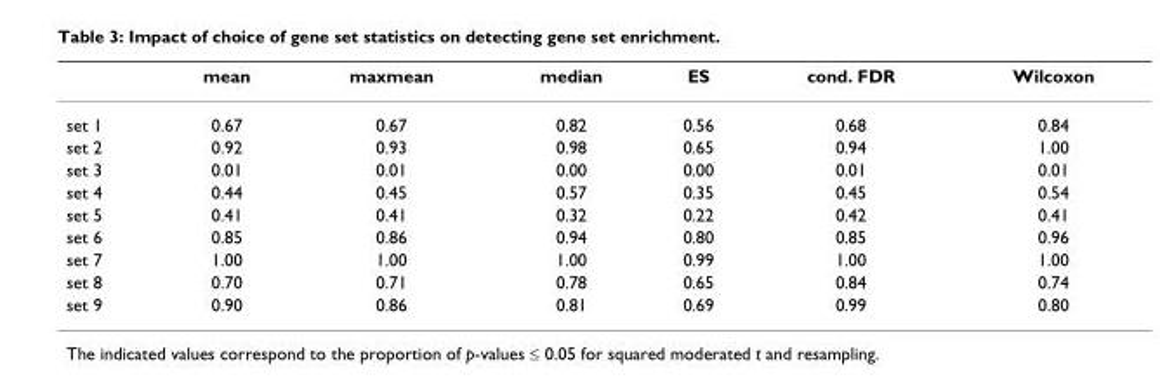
<table><thead><tr><td></td><td>mean</td><td>maxmean</td><td>median</td><td>ES</td><td>cond. FDR</td><td>Wilcoxon</td></tr></thead><tbody><tr><td>set 1</td><td>0.67</td><td>0.67</td><td>0.82</td><td>0.56</td><td>0.68</td><td>0.84</td></tr><tr><td>set 2</td><td>0.92</td><td>0.93</td><td>0.98</td><td>0.65</td><td>0.94</td><td>1.00</td></tr><tr><td>set 3</td><td>0.01</td><td>0.01</td><td>0.00</td><td>0.00</td><td>0.01</td><td>0.01</td></tr><tr><td>set 4</td><td>0.44</td><td>0.45</td><td>0.57</td><td>0.35</td><td>0.45</td><td>0.54</td></tr><tr><td>set 5</td><td>0.41</td><td>0.41</td><td>0.32</td><td>0.22</td><td>0.42</td><td>0.41</td></tr><tr><td>set 6</td><td>0.85</td><td>0.86</td><td>0.94</td><td>0.80</td><td>0.85</td><td>0.96</td></tr><tr><td>set 7</td><td>1.00</td><td>1.00</td><td>1.00</td><td>0.99</td><td>1.00</td><td>1.00</td></tr><tr><td>set 8</td><td>0.70</td><td>0.71</td><td>0.78</td><td>0.65</td><td>0.84</td><td>0.74</td></tr><tr><td>set 9</td><td>0.90</td><td>0.86</td><td>0.81</td><td>0.69</td><td>0.99</td><td>0.80</td></tr></tbody></table>